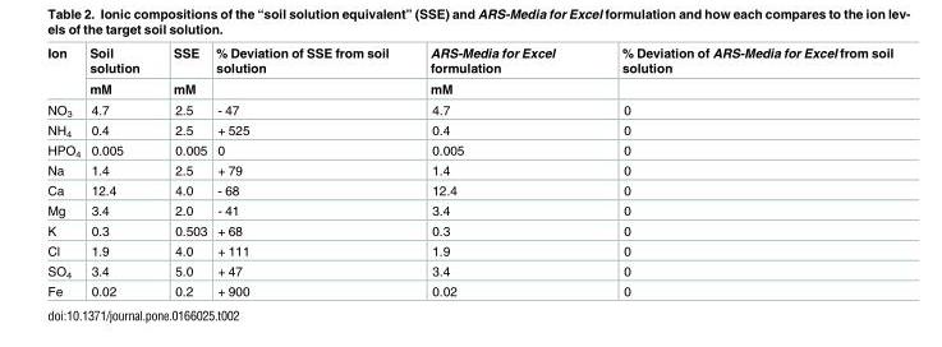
<table><thead><tr><td rowspan="2">Ion</td><td rowspan="2">Soil solution mM</td><td rowspan="2">SSE mM</td><td rowspan="2">% Deviation of SSE from soil solution</td><td rowspan="2">ARS-Media for Excel formulation mM</td><td rowspan="2">% Deviation of ARS-Media for Excel from soil solution</td></tr><tr></tr></thead><tbody><tr><td>NO<sub>3</sub></td><td>4.7</td><td>2.5</td><td>- 47</td><td>4.7</td><td>0</td></tr><tr><td>NH<sub>4</sub></td><td>0.4</td><td>2.5</td><td>+ 525</td><td>0.4</td><td>0</td></tr><tr><td>HPO<sub>4</sub></td><td>0.005</td><td>0.005</td><td>0</td><td>0.005</td><td>0</td></tr><tr><td>Na</td><td>1.4</td><td>2.5</td><td>+ 79</td><td>1.4</td><td>0</td></tr><tr><td>Ca</td><td>12.4</td><td>4.0</td><td>- 68</td><td>12.4</td><td>0</td></tr><tr><td>Mg</td><td>3.4</td><td>2.0</td><td>- 41</td><td>3.4</td><td>0</td></tr><tr><td>K</td><td>0.3</td><td>0.503</td><td>+ 68</td><td>0.3</td><td>0</td></tr><tr><td>Cl</td><td>1.9</td><td>4.0</td><td>+ 111</td><td>1.9</td><td>0</td></tr><tr><td>SO<sub>4</sub></td><td>3.4</td><td>5.0</td><td>+ 47</td><td>3.4</td><td>0</td></tr><tr><td>Fe</td><td>0.02</td><td>0.2</td><td>+ 900</td><td>0.02</td><td>0</td></tr></tbody></table>